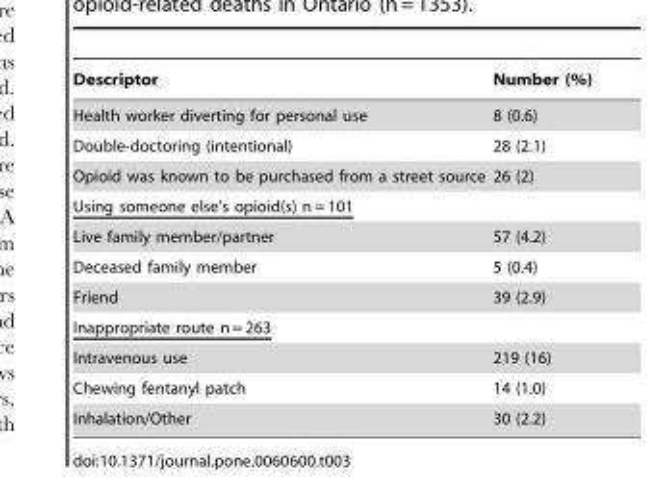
<table><thead><tr><td>Descriptor</td><td>Number (%)</td></tr></thead><tbody><tr><td>Health worker diverting for personal use</td><td>8 (0.6)</td></tr><tr><td>Double-doctoring (intentional)</td><td>28 (2.1)</td></tr><tr><td>Opioid was known to be purchased from a street source</td><td>26 (2)</td></tr><tr><td colspan="2">Using someone else’s opioid(s) n = 101</td></tr><tr><td>Live family member/partner</td><td>57 (4.2)</td></tr><tr><td>Deceased family member</td><td>5 (0.4)</td></tr><tr><td>Friend</td><td>39 (2.9)</td></tr><tr><td colspan="2">Inappropriate route n = 263</td></tr><tr><td>Intravenous use</td><td>219 (16)</td></tr><tr><td>Chewing fentanyl patch</td><td>14 (1.0)</td></tr><tr><td>Inhalation/Other</td><td>30 (2.2)</td></tr></tbody></table>